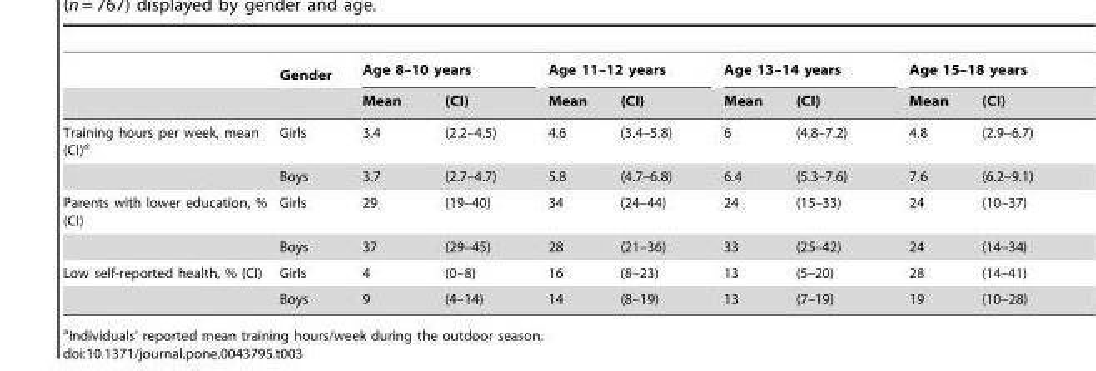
<table><thead><tr><td rowspan="2"></td><td rowspan="2">Gender</td><td colspan="2">Age 8–10 years</td><td colspan="2">Age 11–12 years</td><td colspan="2">Age 13–14 years</td><td colspan="2">Age 15–18 years</td></tr><tr><td>Mean</td><td>(CI)</td><td>Mean</td><td>(CI)</td><td>Mean</td><td>(CI)</td><td>Mean</td><td>(CI)</td></tr></thead><tbody><tr><td rowspan="2">Training hours per week, mean (CI)<sup>a</sup></td><td>Girls</td><td>3.4</td><td>(2.2–4.5)</td><td>4.6</td><td>(3.4–5.8)</td><td>6</td><td>(4.8–7.2)</td><td>4.8</td><td>(2.9–6.7)</td></tr><tr><td>Boys</td><td>3.7</td><td>(2.7–4.7)</td><td>5.8</td><td>(4.7–6.8)</td><td>6.4</td><td>(5.3–7.6)</td><td>7.6</td><td>(6.2–9.1)</td></tr><tr><td rowspan="2">Parents with lower education, % (CI)</td><td>Girls</td><td>29</td><td>(19–40)</td><td>34</td><td>(24–44)</td><td>24</td><td>(15–33)</td><td>24</td><td>(10–37)</td></tr><tr><td>Boys</td><td>37</td><td>(29–45)</td><td>28</td><td>(21–36)</td><td>33</td><td>(25–42)</td><td>24</td><td>(14–34)</td></tr><tr><td rowspan="2">Low self-reported health, % (CI)</td><td>Girls</td><td>4</td><td>(0–8)</td><td>16</td><td>(8–23)</td><td>13</td><td>(5–20)</td><td>28</td><td>(14–41)</td></tr><tr><td>Boys</td><td>9</td><td>(4–14)</td><td>14</td><td>(8–19)</td><td>13</td><td>(7–19)</td><td>19</td><td>(10–28)</td></tr></tbody></table>